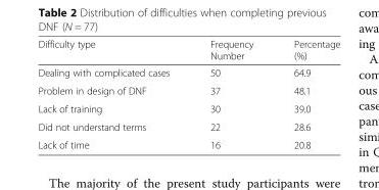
<table><thead><tr><td>Difficulty type</td><td>Frequency Number</td><td>Percentage (%)</td></tr></thead><tbody><tr><td>Dealing with complicated cases</td><td>50</td><td>64.9</td></tr><tr><td>Problem in design of DNF</td><td>37</td><td>48.1</td></tr><tr><td>Lack of training</td><td>30</td><td>39.0</td></tr><tr><td>Did not understand terms</td><td>22</td><td>28.6</td></tr><tr><td>Lack of time</td><td>16</td><td>20.8</td></tr></tbody></table>